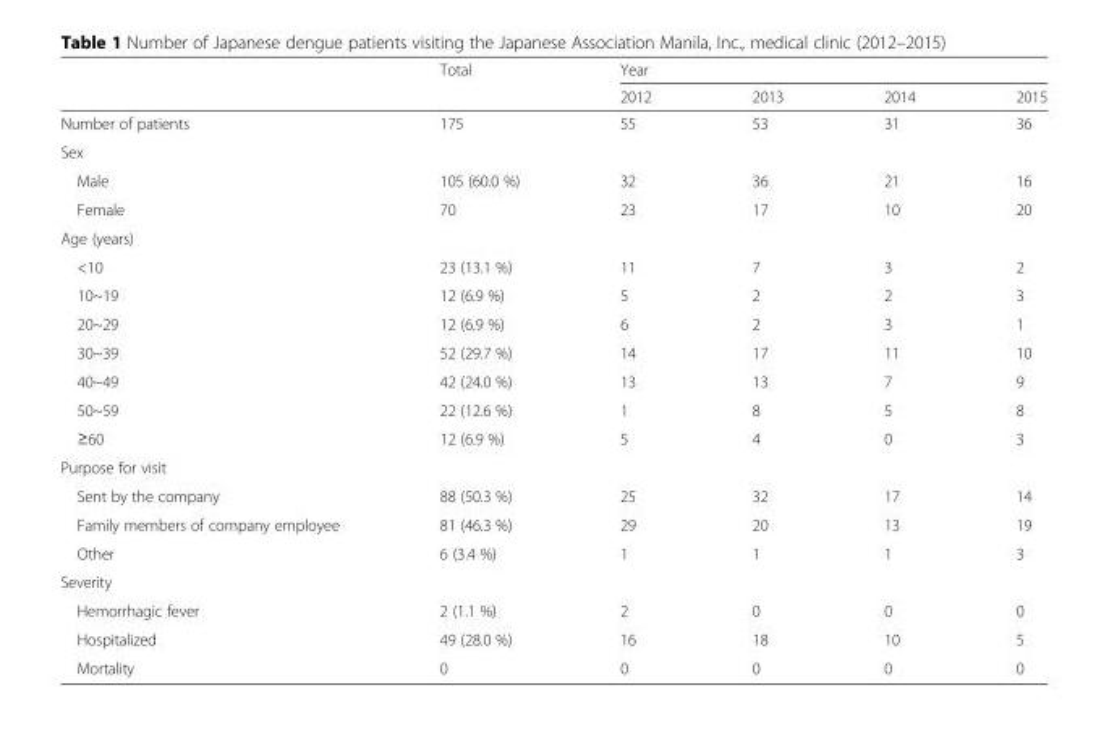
<table><thead><tr><td rowspan="2"></td><td rowspan="2">Total</td><td colspan="4">Year</td></tr><tr><td>2012</td><td>2013</td><td>2014</td><td>2015</td></tr></thead><tbody><tr><td>Number of patients</td><td>175</td><td>55</td><td>53</td><td>31</td><td>36</td></tr><tr><td colspan="6">Sex</td></tr><tr><td>Male</td><td>105 (60.0 %)</td><td>32</td><td>36</td><td>21</td><td>16</td></tr><tr><td>Female</td><td>70</td><td>23</td><td>17</td><td>10</td><td>20</td></tr><tr><td colspan="6">Age (years)</td></tr><tr><td>&lt;10</td><td>23 (13.1 %)</td><td>11</td><td>7</td><td>3</td><td>2</td></tr><tr><td>10~19</td><td>12 (6.9 %)</td><td>5</td><td>2</td><td>2</td><td>3</td></tr><tr><td>20~29</td><td>12 (6.9 %)</td><td>6</td><td>2</td><td>3</td><td>1</td></tr><tr><td>30~39</td><td>52 (29.7 %)</td><td>14</td><td>17</td><td>11</td><td>10</td></tr><tr><td>40~49</td><td>42 (24.0 %)</td><td>13</td><td>13</td><td>7</td><td>9</td></tr><tr><td>50~59</td><td>22 (12.6 %)</td><td>1</td><td>8</td><td>5</td><td>8</td></tr><tr><td>≥60</td><td>12 (6.9 %)</td><td>5</td><td>4</td><td>0</td><td>3</td></tr><tr><td colspan="6">Purpose for visit</td></tr><tr><td>Sent by the company</td><td>88 (50.3 %)</td><td>25</td><td>32</td><td>17</td><td>14</td></tr><tr><td>Family members of company employee</td><td>81 (46.3 %)</td><td>29</td><td>20</td><td>13</td><td>19</td></tr><tr><td>Other</td><td>6 (3.4 %)</td><td>1</td><td>1</td><td>1</td><td>3</td></tr><tr><td colspan="6">Severity</td></tr><tr><td>Hemorrhagic fever</td><td>2 (1.1 %)</td><td>2</td><td>0</td><td>0</td><td>0</td></tr><tr><td>Hospitalized</td><td>49 (28.0 %)</td><td>16</td><td>18</td><td>10</td><td>5</td></tr><tr><td>Mortality</td><td>0</td><td>0</td><td>0</td><td>0</td><td>0</td></tr></tbody></table>